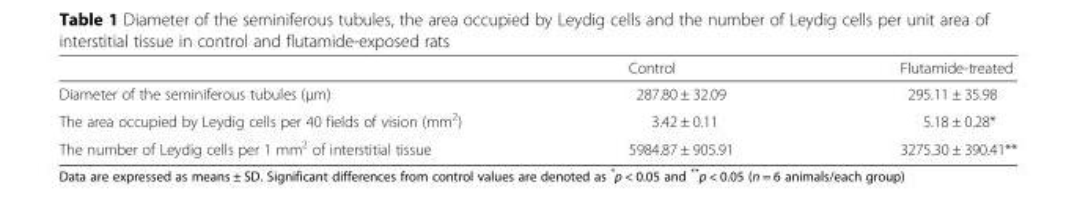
<table><thead><tr><td></td><td>Control</td><td>Flutamide-treated</td></tr></thead><tbody><tr><td>Diameter of the seminiferous tubules (μm)</td><td>287.80 ± 32.09</td><td>295.11 ± 35.98</td></tr><tr><td>The area occupied by Leydig cells per 40 fields of vision (mm<sup>2</sup>)</td><td>3.42 ± 0.11</td><td>5.18 ± 0.28*</td></tr><tr><td>The number of Leydig cells per 1 mm<sup>2</sup> of interstitial tissue</td><td>5984.87 ± 905.91</td><td>3275.30 ± 390.41**</td></tr></tbody></table>